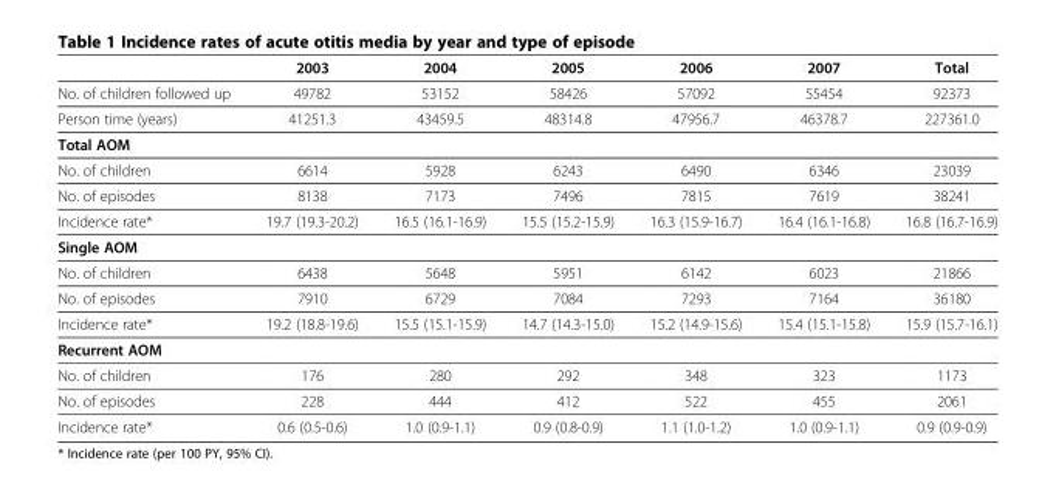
<table><thead><tr><td></td><td>2003</td><td>2004</td><td>2005</td><td>2006</td><td>2007</td><td>Total</td></tr></thead><tbody><tr><td>No. of children followed up</td><td>49782</td><td>53152</td><td>58426</td><td>57092</td><td>55454</td><td>92373</td></tr><tr><td>Person time (years)</td><td>41251.3</td><td>43459.5</td><td>48314.8</td><td>47956.7</td><td>46378.7</td><td>227361.0</td></tr><tr><td colspan="7">Total AOM</td></tr><tr><td>No. of children</td><td>6614</td><td>5928</td><td>6243</td><td>6490</td><td>6346</td><td>23039</td></tr><tr><td>No. of episodes</td><td>8138</td><td>7173</td><td>7496</td><td>7815</td><td>7619</td><td>38241</td></tr><tr><td>Incidence rate*</td><td>19.7 (19.3-20.2)</td><td>16.5 (16.1-16.9)</td><td>15.5 (15.2-15.9)</td><td>16.3 (15.9-16.7)</td><td>16.4 (16.1-16.8)</td><td>16.8 (16.7-16.9)</td></tr><tr><td colspan="7">Single AOM</td></tr><tr><td>No. of children</td><td>6438</td><td>5648</td><td>5951</td><td>6142</td><td>6023</td><td>21866</td></tr><tr><td>No. of episodes</td><td>7910</td><td>6729</td><td>7084</td><td>7293</td><td>7164</td><td>36180</td></tr><tr><td>Incidence rate*</td><td>19.2 (18.8-19.6)</td><td>15.5 (15.1-15.9)</td><td>14.7 (14.3-15.0)</td><td>15.2 (14.9-15.6)</td><td>15.4 (15.1-15.8)</td><td>15.9 (15.7-16.1)</td></tr><tr><td colspan="7">Recurrent AOM</td></tr><tr><td>No. of children</td><td>176</td><td>280</td><td>292</td><td>348</td><td>323</td><td>1173</td></tr><tr><td>No. of episodes</td><td>228</td><td>444</td><td>412</td><td>522</td><td>455</td><td>2061</td></tr><tr><td>Incidence rate*</td><td>0.6 (0.5-0.6)</td><td>1.0 (0.9-1.1)</td><td>0.9 (0.8-0.9)</td><td>1.1 (1.0-1.2)</td><td>1.0 (0.9-1.1)</td><td>0.9 (0.9-0.9)</td></tr></tbody></table>